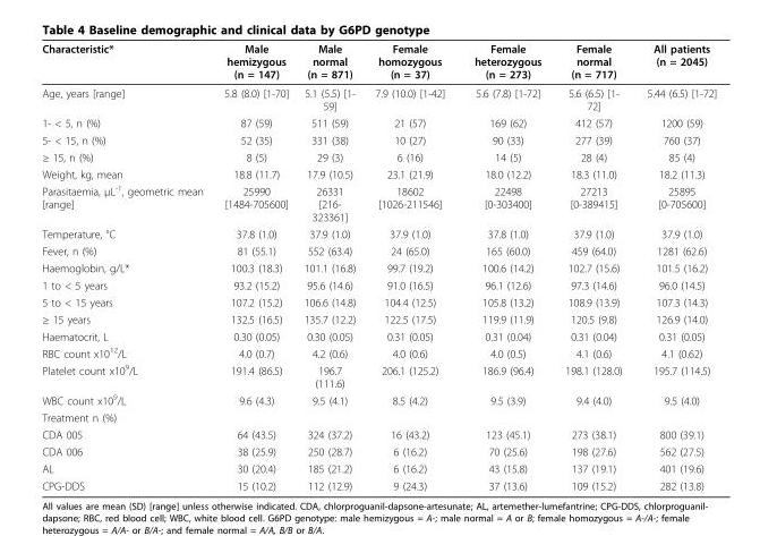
<table><thead><tr><td>Characteristic*</td><td>Male hemizygous (n = 147)</td><td>Male normal (n = 871)</td><td>Female homozygous (n = 37)</td><td>Female heterozygous (n = 273)</td><td>Female normal (n = 717)</td><td>All patients (n = 2045)</td></tr></thead><tbody><tr><td>Age, years [range]</td><td>5.8 (8.0) [1-70]</td><td>5.1 (5.5) [1- 59]</td><td>7.9 (10.0) [1-42]</td><td>5.6 (7.8) [1-72]</td><td>5.6 (6.5) [1- 72]</td><td>5.44 (6.5) [1-72]</td></tr><tr><td>1- &lt; 5, n (%)</td><td>87 (59)</td><td>511 (59)</td><td>21 (57)</td><td>169 (62)</td><td>412 (57)</td><td>1200 (59)</td></tr><tr><td>5- &lt; 15, n (%)</td><td>52 (35)</td><td>331 (38)</td><td>10 (27)</td><td>90 (33)</td><td>277 (39)</td><td>760 (37)</td></tr><tr><td>≥ 15, n (%)</td><td>8 (5)</td><td>29 (3)</td><td>6 (16)</td><td>14 (5)</td><td>28 (4)</td><td>85 (4)</td></tr><tr><td>Weight, kg, mean</td><td>18.8 (11.7)</td><td>17.9 (10.5)</td><td>23.1 (21.9)</td><td>18.0 (12.2)</td><td>18.3 (11.0)</td><td>18.2 (11.3)</td></tr><tr><td>Parasitaemia, μL<sup>-1</sup>, geometric mean [range]</td><td>25990 [1484-705600]</td><td>26331 [216- 323361]</td><td>18602 [1026-211546]</td><td>22498 [0-303400]</td><td>27213 [0-389415]</td><td>25895 [0-705600]</td></tr><tr><td>Temperature, °C</td><td>37.8 (1.0)</td><td>37.9 (1.0)</td><td>37.9 (1.0)</td><td>37.8 (1.0)</td><td>37.9 (1.0)</td><td>37.9 (1.0)</td></tr><tr><td>Fever, n (%)</td><td>81 (55.1)</td><td>552 (63.4)</td><td>24 (65.0)</td><td>165 (60.0)</td><td>459 (64.0)</td><td>1281 (62.6)</td></tr><tr><td>Haemoglobin, g/L*</td><td>100.3 (18.3)</td><td>101.1 (16.8)</td><td>99.7 (19.2)</td><td>100.6 (14.2)</td><td>102.7 (15.6)</td><td>101.5 (16.2)</td></tr><tr><td>1 to &lt; 5 years</td><td>93.2 (15.2)</td><td>95.6 (14.6)</td><td>91.0 (16.5)</td><td>96.1 (12.6)</td><td>97.3 (14.6)</td><td>96.0 (14.5)</td></tr><tr><td>5 to &lt; 15 years</td><td>107.2 (15.2)</td><td>106.6 (14.8)</td><td>104.4 (12.5)</td><td>105.8 (13.2)</td><td>108.9 (13.9)</td><td>107.3 (14.3)</td></tr><tr><td>≥ 15 years</td><td>132.5 (16.5)</td><td>135.7 (12.2)</td><td>122.5 (17.5)</td><td>119.9 (11.9)</td><td>120.5 (9.8)</td><td>126.9 (14.0)</td></tr><tr><td>Haematocrit, L</td><td>0.30 (0.05)</td><td>0.30 (0.05)</td><td>0.31 (0.05)</td><td>0.31 (0.04)</td><td>0.31 (0.04)</td><td>0.31 (0.05)</td></tr><tr><td>RBC count x10<sup>12</sup>/L</td><td>4.0 (0.7)</td><td>4.2 (0.6)</td><td>4.0 (0.6)</td><td>4.0 (0.5)</td><td>4.1 (0.6)</td><td>4.1 (0.62)</td></tr><tr><td>Platelet count x10<sup>9</sup>/L</td><td>191.4 (86.5)</td><td>196.7 (111.6)</td><td>206.1 (125.2)</td><td>186.9 (96.4)</td><td>198.1 (128.0)</td><td>195.7 (114.5)</td></tr><tr><td>WBC count x10<sup>9</sup>/L</td><td>9.6 (4.3)</td><td>9.5 (4.1)</td><td>8.5 (4.2)</td><td>9.5 (3.9)</td><td>9.4 (4.0)</td><td>9.5 (4.0)</td></tr><tr><td colspan="7">Treatment n (%)</td></tr><tr><td>CDA 005</td><td>64 (43.5)</td><td>324 (37.2)</td><td>16 (43.2)</td><td>123 (45.1)</td><td>273 (38.1)</td><td>800 (39.1)</td></tr><tr><td>CDA 006</td><td>38 (25.9)</td><td>250 (28.7)</td><td>6 (16.2)</td><td>70 (25.6)</td><td>198 (27.6)</td><td>562 (27.5)</td></tr><tr><td>AL</td><td>30 (20.4)</td><td>185 (21.2)</td><td>6 (16.2)</td><td>43 (15.8)</td><td>137 (19.1)</td><td>401 (19.6)</td></tr><tr><td>CPG-DDS</td><td>15 (10.2)</td><td>112 (12.9)</td><td>9 (24.3)</td><td>37 (13.6)</td><td>109 (15.2)</td><td>282 (13.8)</td></tr></tbody></table>